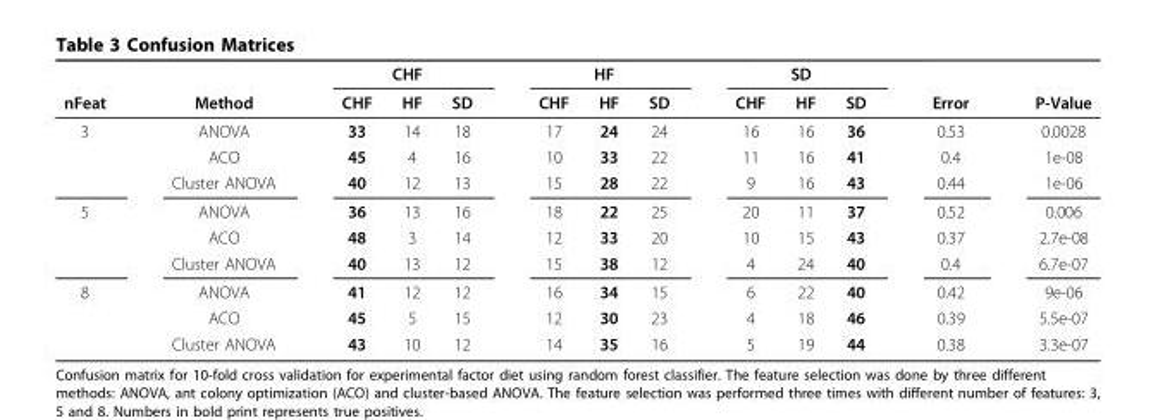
<table><thead><tr><td rowspan="2">nFeat</td><td rowspan="2">Method</td><td colspan="3">CHF</td><td colspan="3">HF</td><td colspan="3">SD</td><td rowspan="2">Error</td><td rowspan="2">P-Value</td></tr><tr><td>CHF</td><td>HF</td><td>SD</td><td>CHF</td><td>HF</td><td>SD</td><td>CHF</td><td>HF</td><td>SD</td></tr></thead><tbody><tr><td rowspan="3">3</td><td>ANOVA</td><td>33</td><td>14</td><td>18</td><td>17</td><td>24</td><td>24</td><td>16</td><td>16</td><td>36</td><td>0.53</td><td>0.0028</td></tr><tr><td>ACO</td><td>45</td><td>4</td><td>16</td><td>10</td><td>33</td><td>22</td><td>11</td><td>16</td><td>41</td><td>0.4</td><td>1e-08</td></tr><tr><td>Cluster ANOVA</td><td>40</td><td>12</td><td>13</td><td>15</td><td>28</td><td>22</td><td>9</td><td>16</td><td>43</td><td>0.44</td><td>1e-06</td></tr><tr><td rowspan="3">5</td><td>ANOVA</td><td>36</td><td>13</td><td>16</td><td>18</td><td>22</td><td>25</td><td>20</td><td>11</td><td>37</td><td>0.52</td><td>0.006</td></tr><tr><td>ACO</td><td>48</td><td>3</td><td>14</td><td>12</td><td>33</td><td>20</td><td>10</td><td>15</td><td>43</td><td>0.37</td><td>2.7e-08</td></tr><tr><td>Cluster ANOVA</td><td>40</td><td>13</td><td>12</td><td>15</td><td>38</td><td>12</td><td>4</td><td>24</td><td>40</td><td>0.4</td><td>6.7e-07</td></tr><tr><td rowspan="3">8</td><td>ANOVA</td><td>41</td><td>12</td><td>12</td><td>16</td><td>34</td><td>15</td><td>6</td><td>22</td><td>40</td><td>0.42</td><td>9e-06</td></tr><tr><td>ACO</td><td>45</td><td>5</td><td>15</td><td>12</td><td>30</td><td>23</td><td>4</td><td>18</td><td>46</td><td>0.39</td><td>5.5e-07</td></tr><tr><td>Cluster ANOVA</td><td>43</td><td>10</td><td>12</td><td>14</td><td>35</td><td>16</td><td>5</td><td>19</td><td>44</td><td>0.38</td><td>3.3e-07</td></tr></tbody></table>